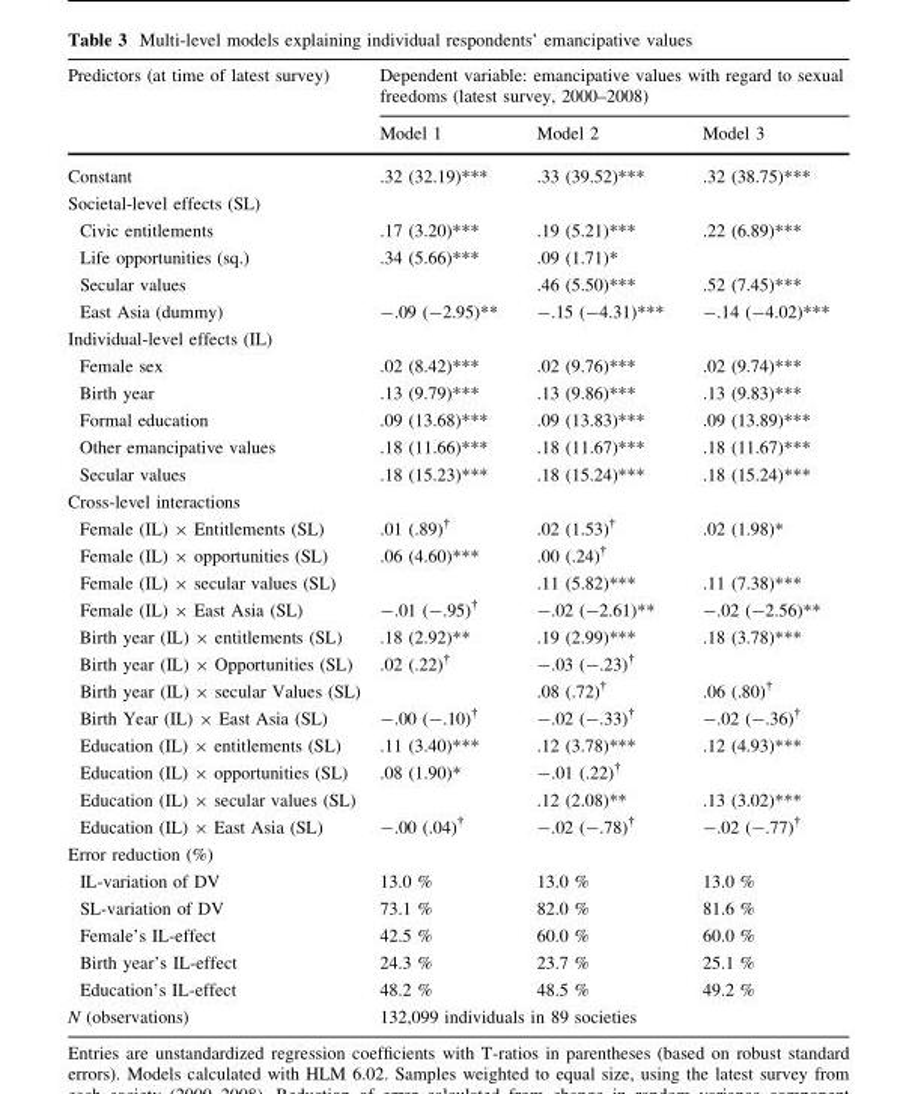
<table><thead><tr><td rowspan="2">Predictors (at time of latest survey)</td><td colspan="3">Dependent variable: emancipative values with regard to sexual freedoms (latest survey, 2000–2008)</td></tr><tr><td>Model 1</td><td>Model 2</td><td>Model 3</td></tr></thead><tbody><tr><td>Constant</td><td>.32 (32.19)***</td><td>.33 (39.52)***</td><td>.32 (38.75)***</td></tr><tr><td colspan="4">Societal-level effects (SL)</td></tr><tr><td>Civic entitlements</td><td>.17 (3.20)***</td><td>.19 (5.21)***</td><td>.22 (6.89)***</td></tr><tr><td>Life opportunities (sq.)</td><td>.34 (5.66)***</td><td>.09 (1.71)*</td><td></td></tr><tr><td>Secular values</td><td></td><td>.46 (5.50)***</td><td>.52 (7.45)***</td></tr><tr><td>East Asia (dummy)</td><td>-.09 (-2.95)**</td><td>-.15 (-4.31)***</td><td>-.14 (-4.02)***</td></tr><tr><td colspan="4">Individual-level effects (IL)</td></tr><tr><td>Female sex</td><td>.02 (8.42)***</td><td>.02 (9.76)***</td><td>.02 (9.74)***</td></tr><tr><td>Birth year</td><td>.13 (9.79)***</td><td>.13 (9.86)***</td><td>.13 (9.83)***</td></tr><tr><td>Formal education</td><td>.09 (13.68)***</td><td>.09 (13.83)***</td><td>.09 (13.89)***</td></tr><tr><td>Other emancipative values</td><td>.18 (11.66)***</td><td>.18 (11.67)***</td><td>.18 (11.67)***</td></tr><tr><td>Secular values</td><td>.18 (15.23)***</td><td>.18 (15.24)***</td><td>.18 (15.24)***</td></tr><tr><td colspan="4">Cross-level interactions</td></tr><tr><td>Female (IL) × Entitlements (SL)</td><td>.01 (.89)<sup>†</sup></td><td>.02 (1.53)<sup>†</sup></td><td>.02 (1.98)*</td></tr><tr><td>Female (IL) × opportunities (SL)</td><td>.06 (4.60)***</td><td>.00 (.24)<sup>†</sup></td><td></td></tr><tr><td>Female (IL) × secular values (SL)</td><td></td><td>.11 (5.82)***</td><td>.11 (7.38)***</td></tr><tr><td>Female (IL) × East Asia (SL)</td><td>-.01 (-.95)<sup>†</sup></td><td>-.02 (-2.61)**</td><td>-.02 (-2.56)**</td></tr><tr><td>Birth year (IL) × entitlements (SL)</td><td>.18 (2.92)**</td><td>.19 (2.99)***</td><td>.18 (3.78)***</td></tr><tr><td>Birth year (IL) × Opportunities (SL)</td><td>.02 (.22)<sup>†</sup></td><td>-.03 (-.23)<sup>†</sup></td><td></td></tr><tr><td>Birth year (IL) × secular Values (SL)</td><td></td><td>.08 (.72)<sup>†</sup></td><td>.06 (.80)<sup>†</sup></td></tr><tr><td>Birth Year (IL) × East Asia (SL)</td><td>-.00 (-.10)<sup>†</sup></td><td>-.02 (-.33)<sup>†</sup></td><td>-.02 (-.36)<sup>†</sup></td></tr><tr><td>Education (IL) × entitlements (SL)</td><td>.11 (3.40)***</td><td>.12 (3.78)***</td><td>.12 (4.93)***</td></tr><tr><td>Education (IL) × opportunities (SL)</td><td>.08 (1.90)*</td><td>-.01 (.22)<sup>†</sup></td><td></td></tr><tr><td>Education (IL) × secular values (SL)</td><td></td><td>.12 (2.08)**</td><td>.13 (3.02)***</td></tr><tr><td>Education (IL) × East Asia (SL)</td><td>-.00 (.04)<sup>†</sup></td><td>-.02 (-.78)<sup>†</sup></td><td>-.02 (-.77)<sup>†</sup></td></tr><tr><td colspan="4">Error reduction (%)</td></tr><tr><td>IL-variation of DV</td><td>13.0 %</td><td>13.0 %</td><td>13.0 %</td></tr><tr><td>SL-variation of DV</td><td>73.1 %</td><td>82.0 %</td><td>81.6 %</td></tr><tr><td>Female’s IL-effect</td><td>42.5 %</td><td>60.0 %</td><td>60.0 %</td></tr><tr><td>Birth year’s IL-effect</td><td>24.3 %</td><td>23.7 %</td><td>25.1 %</td></tr><tr><td>Education’s IL-effect</td><td>48.2 %</td><td>48.5 %</td><td>49.2 %</td></tr><tr><td>N (observations)</td><td colspan="3">132,099 individuals in 89 societies</td></tr></tbody></table>